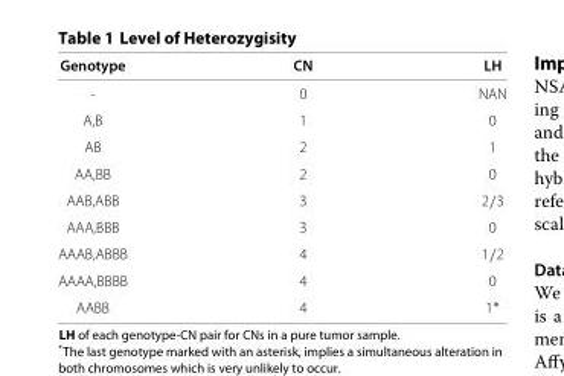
<table><thead><tr><td>Genotype</td><td>CN</td><td>LH</td></tr></thead><tbody><tr><td>-</td><td>0</td><td>NAN</td></tr><tr><td>A,B</td><td>1</td><td>0</td></tr><tr><td>AB</td><td>2</td><td>1</td></tr><tr><td>AA,BB</td><td>2</td><td>0</td></tr><tr><td>AAB,ABB</td><td>3</td><td>2/3</td></tr><tr><td>AAA,BBB</td><td>3</td><td>0</td></tr><tr><td>AAAB,ABBB</td><td>4</td><td>1/2</td></tr><tr><td>AAAA,BBBB</td><td>4</td><td>0</td></tr><tr><td>AABB</td><td>4</td><td>1∗</td></tr></tbody></table>